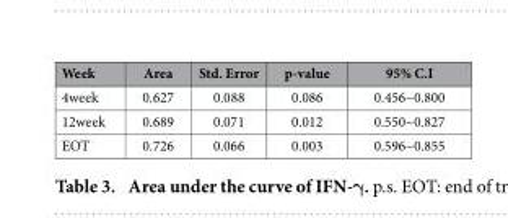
<table><thead><tr><td>Week</td><td>Area</td><td>Std. Error</td><td>p-value</td><td>95% C.I</td></tr></thead><tbody><tr><td>4week</td><td>0.627</td><td>0.088</td><td>0.086</td><td>0.456~0.800</td></tr><tr><td>12week</td><td>0.689</td><td>0.071</td><td>0.012</td><td>0.550~0.827</td></tr><tr><td>EOT</td><td>0.726</td><td>0.066</td><td>0.003</td><td>0.596~0.855</td></tr></tbody></table>